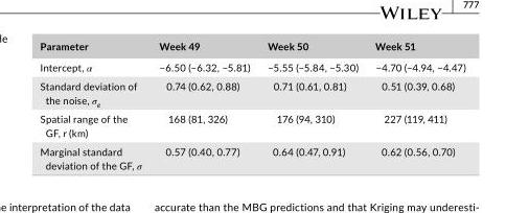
<table><thead><tr><td>Parameter</td><td>Week 49</td><td>Week 50</td><td>Week 51</td></tr></thead><tbody><tr><td>Intercept, α</td><td>−6.50 (−6.32, −5.81)</td><td>−5.55 (−5.84, −5.30)</td><td>−4.70 (−4.94, −4.47)</td></tr><tr><td>Standard deviation of the noise, σ<sub>e</sub></td><td>0.74 (0.62, 0.88)</td><td>0.71 (0.61, 0.81)</td><td>0.51 (0.39, 0.68)</td></tr><tr><td>Spatial range of the GF, r (km)</td><td>168 (81, 326)</td><td>176 (94, 310)</td><td>227 (119, 411)</td></tr><tr><td>Marginal standard deviation of the GF, σ</td><td>0.57 (0.40, 0.77)</td><td>0.64 (0.47, 0.91)</td><td>0.62 (0.56, 0.70)</td></tr></tbody></table>